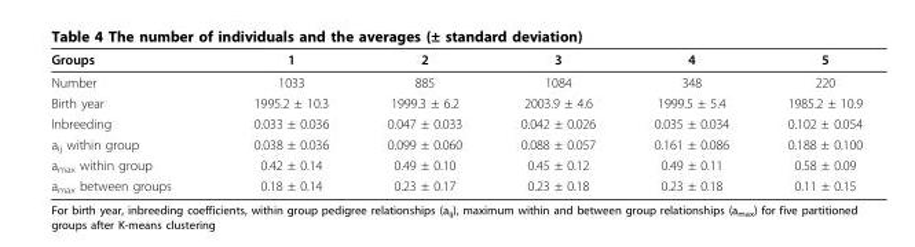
<table><thead><tr><td>Groups</td><td>1</td><td>2</td><td>3</td><td>4</td><td>5</td></tr></thead><tbody><tr><td>Number</td><td>1033</td><td>885</td><td>1084</td><td>348</td><td>220</td></tr><tr><td>Birth year</td><td>1995.2 ± 10.3</td><td>1999.3 ± 6.2</td><td>2003.9 ± 4.6</td><td>1999.5 ± 5.4</td><td>1985.2 ± 10.9</td></tr><tr><td>Inbreeding</td><td>0.033 ± 0.036</td><td>0.047 ± 0.033</td><td>0.042 ± 0.026</td><td>0.035 ± 0.034</td><td>0.102 ± 0.054</td></tr><tr><td>a<sub>ij</sub> within group</td><td>0.038 ± 0.036</td><td>0.099 ± 0.060</td><td>0.088 ± 0.057</td><td>0.161 ± 0.086</td><td>0.188 ± 0.100</td></tr><tr><td>a<sub>max</sub> within group</td><td>0.42 ± 0.14</td><td>0.49 ± 0.10</td><td>0.45 ± 0.12</td><td>0.49 ± 0.11</td><td>0.58 ± 0.09</td></tr><tr><td>a<sub>max</sub> between groups</td><td>0.18 ± 0.14</td><td>0.23 ± 0.17</td><td>0.23 ± 0.18</td><td>0.23 ± 0.18</td><td>0.11 ± 0.15</td></tr></tbody></table>